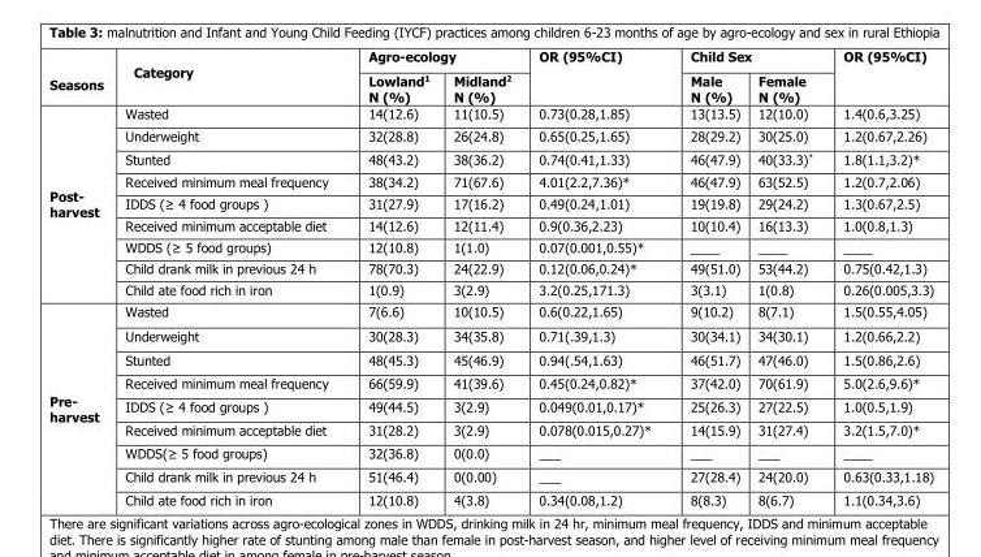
<table><thead><tr><td rowspan="2">Seasons</td><td rowspan="2">Category</td><td colspan="2">Agro-ecology</td><td rowspan="2">OR (95%CI)</td><td colspan="2">Child Sex</td><td rowspan="2">OR (95%CI)</td></tr><tr><td>Lowland<sup>1</sup> N (%)</td><td>Midland<sup>2</sup> N (%)</td><td>Male N (%)</td><td>Female N (%)</td></tr></thead><tbody><tr><td rowspan="9">Post- harvest</td><td>Wasted</td><td>14(12.6)</td><td>11(10.5)</td><td>0.73(0.28,1.85)</td><td>13(13.5)</td><td>12(10.0)</td><td>1.4(0.6,3.25)</td></tr><tr><td>Underweight</td><td>32(28.8)</td><td>26(24.8)</td><td>0.65(0.25,1.65)</td><td>28(29.2)</td><td>30(25.0)</td><td>1.2(0.67,2.26)</td></tr><tr><td>Stunted</td><td>48(43.2)</td><td>38(36.2)</td><td>0.74(0.41,1.33)</td><td>46(47.9)</td><td>40(33.3)*</td><td>1.8(1.1,3.2)*</td></tr><tr><td>Received minimum meal frequency</td><td>38(34.2)</td><td>71(67.6)</td><td>4.01(2.2,7.36)*</td><td>46(47.9)</td><td>63(52.5)</td><td>1.2(0.7,2.06)</td></tr><tr><td>IDDS (≥ 4 food groups )</td><td>31(27.9)</td><td>17(16.2)</td><td>0.49(0.24,1.01)</td><td>19(19.8)</td><td>29(24.2)</td><td>1.3(0.67,2.5)</td></tr><tr><td>Received minimum acceptable diet</td><td>14(12.6)</td><td>12(11.4)</td><td>0.9(0.36,2.23)</td><td>10(10.4)</td><td>16(13.3)</td><td>1.0(0.8,1.3)</td></tr><tr><td>WDDS (≥ 5 food groups)</td><td>12(10.8)</td><td>1(1.0)</td><td>0.07(0.001,0.55)*</td><td>____</td><td>____</td><td>____</td></tr><tr><td>Child drank milk in previous 24 h</td><td>78(70.3)</td><td>24(22.9)</td><td>0.12(0.06,0.24)*</td><td>49(51.0)</td><td>53(44.2)</td><td>0.75(0.42,1.3)</td></tr><tr><td>Child ate food rich in iron</td><td>1(0.9)</td><td>3(2.9)</td><td>3.2(0.25,171.3)</td><td>3(3.1)</td><td>1(0.8)</td><td>0.26(0.005,3.3)</td></tr><tr><td rowspan="9">Pre- harvest</td><td>Wasted</td><td>7(6.6)</td><td>10(10.5)</td><td>0.6(0.22,1.65)</td><td>9(10.2)</td><td>8(7.1)</td><td>1.5(0.55,4.05)</td></tr><tr><td>Underweight</td><td>30(28.3)</td><td>34(35.8)</td><td>0.71(.39,1.3)</td><td>30(34.1)</td><td>34(30.1)</td><td>1.2(0.66,2.2)</td></tr><tr><td>Stunted</td><td>48(45.3)</td><td>45(46.9)</td><td>0.94(.54,1.63)</td><td>46(51.7)</td><td>47(46.0)</td><td>1.5(0.86,2.6)</td></tr><tr><td>Received minimum meal frequency</td><td>66(59.9)</td><td>41(39.6)</td><td>0.45(0.24,0.82)*</td><td>37(42.0)</td><td>70(61.9)</td><td>5.0(2.6,9.6)*</td></tr><tr><td>IDDS (≥ 4 food groups )</td><td>49(44.5)</td><td>3(2.9)</td><td>0.049(0.01,0.17)*</td><td>25(26.3)</td><td>27(22.5)</td><td>1.0(0.5,1.9)</td></tr><tr><td>Received minimum acceptable diet</td><td>31(28.2)</td><td>3(2.9)</td><td>0.078(0.015,0.27)*</td><td>14(15.9)</td><td>31(27.4)</td><td>3.2(1.5,7.0)*</td></tr><tr><td>WDDS(≥ 5 food groups)</td><td>32(36.8)</td><td>0(0.0)</td><td>___</td><td>___</td><td>___</td><td>____</td></tr><tr><td>Child drank milk in previous 24 h</td><td>51(46.4)</td><td>0(0.00)</td><td>___</td><td>27(28.4)</td><td>24(20.0)</td><td>0.63(0.33,1.18)</td></tr><tr><td>Child ate food rich in iron</td><td>12(10.8)</td><td>4(3.8)</td><td>0.34(0.08,1.2)</td><td>8(8.3)</td><td>8(6.7)</td><td>1.1(0.34,3.6)</td></tr></tbody></table>